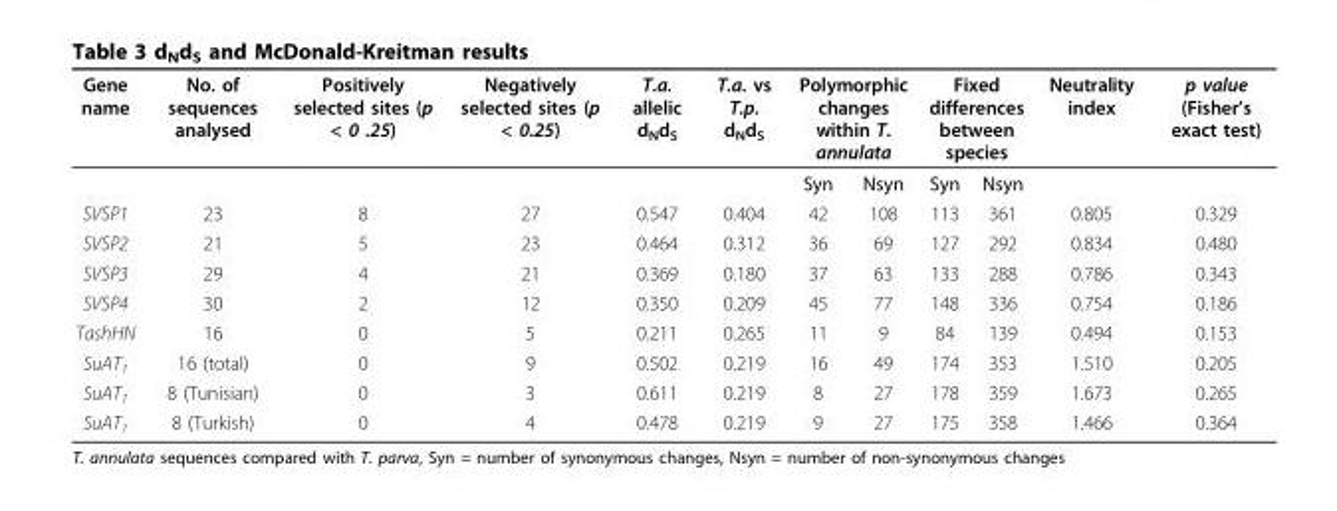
<table><thead><tr><td rowspan="2">Gene name</td><td rowspan="2">No. of sequences analysed</td><td rowspan="2">Positively selected sites (p &lt; 0 .25)</td><td rowspan="2">Negatively selected sites (p &lt; 0.25)</td><td rowspan="2">T.a. allelic d<sub>N</sub>d<sub>S</sub></td><td rowspan="2">T.a. vs T.p. d<sub>N</sub>d<sub>S</sub></td><td colspan="2">Polymorphic changes within T. annulata</td><td colspan="2">Fixed differences between species</td><td rowspan="2">Neutrality index</td><td rowspan="2">p value (Fisher’s exact test)</td></tr><tr><td>Syn</td><td>Nsyn</td><td>Syn</td><td>Nsyn</td></tr></thead><tbody><tr><td>SVSP1</td><td>23</td><td>8</td><td>27</td><td>0.547</td><td>0.404</td><td>42</td><td>108</td><td>113</td><td>361</td><td>0.805</td><td>0.329</td></tr><tr><td>SVSP2</td><td>21</td><td>5</td><td>23</td><td>0.464</td><td>0.312</td><td>36</td><td>69</td><td>127</td><td>292</td><td>0.834</td><td>0.480</td></tr><tr><td>SVSP3</td><td>29</td><td>4</td><td>21</td><td>0.369</td><td>0.180</td><td>37</td><td>63</td><td>133</td><td>288</td><td>0.786</td><td>0.343</td></tr><tr><td>SVSP4</td><td>30</td><td>2</td><td>12</td><td>0.350</td><td>0.209</td><td>45</td><td>77</td><td>148</td><td>336</td><td>0.754</td><td>0.186</td></tr><tr><td>TashHN</td><td>16</td><td>0</td><td>5</td><td>0.211</td><td>0.265</td><td>11</td><td>9</td><td>84</td><td>139</td><td>0.494</td><td>0.153</td></tr><tr><td>SuAT<sub>1</sub></td><td>16 (total)</td><td>0</td><td>9</td><td>0.502</td><td>0.219</td><td>16</td><td>49</td><td>174</td><td>353</td><td>1.510</td><td>0.205</td></tr><tr><td>SuAT<sub>1</sub></td><td>8 (Tunisian)</td><td>0</td><td>3</td><td>0.611</td><td>0.219</td><td>8</td><td>27</td><td>178</td><td>359</td><td>1.673</td><td>0.265</td></tr><tr><td>SuAT<sub>1</sub></td><td>8 (Turkish)</td><td>0</td><td>4</td><td>0.478</td><td>0.219</td><td>9</td><td>27</td><td>175</td><td>358</td><td>1.466</td><td>0.364</td></tr></tbody></table>